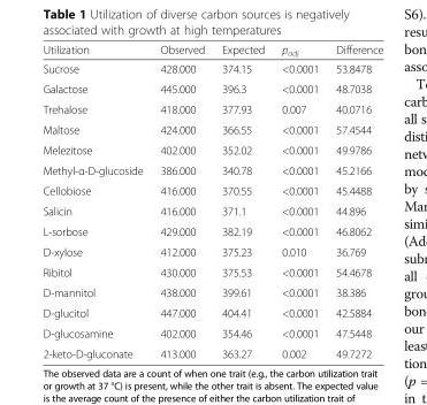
<table><thead><tr><td>Utilization</td><td>Observed</td><td>Expected</td><td>p<sub>adj</sub></td><td>Difference</td></tr></thead><tbody><tr><td>Sucrose</td><td>428.000</td><td>374.15</td><td>&lt;0.0001</td><td>53.8478</td></tr><tr><td>Galactose</td><td>445.000</td><td>396.3</td><td>&lt;0.0001</td><td>48.7038</td></tr><tr><td>Trehalose</td><td>418.000</td><td>377.93</td><td>0.007</td><td>40.0716</td></tr><tr><td>Maltose</td><td>424.000</td><td>366.55</td><td>&lt;0.0001</td><td>57.4544</td></tr><tr><td>Melezitose</td><td>402.000</td><td>352.02</td><td>&lt;0.0001</td><td>49.9786</td></tr><tr><td>Methyl-α-D-glucoside</td><td>386.000</td><td>340.78</td><td>&lt;0.0001</td><td>45.2166</td></tr><tr><td>Cellobiose</td><td>416.000</td><td>370.55</td><td>&lt;0.0001</td><td>45.4488</td></tr><tr><td>Salicin</td><td>416.000</td><td>371.1</td><td>&lt;0.0001</td><td>44.896</td></tr><tr><td>L-sorbose</td><td>429.000</td><td>382.19</td><td>&lt;0.0001</td><td>46.8062</td></tr><tr><td>D-xylose</td><td>412.000</td><td>375.23</td><td>0.010</td><td>36.769</td></tr><tr><td>Ribitol</td><td>430.000</td><td>375.53</td><td>&lt;0.0001</td><td>54.4678</td></tr><tr><td>D-mannitol</td><td>438.000</td><td>399.61</td><td>&lt;0.0001</td><td>38.386</td></tr><tr><td>D-glucitol</td><td>447.000</td><td>404.41</td><td>&lt;0.0001</td><td>42.5884</td></tr><tr><td>D-glucosamine</td><td>402.000</td><td>354.46</td><td>&lt;0.0001</td><td>47.5448</td></tr><tr><td>2-keto-D-gluconate</td><td>413.000</td><td>363.27</td><td>0.002</td><td>49.7272</td></tr></tbody></table>